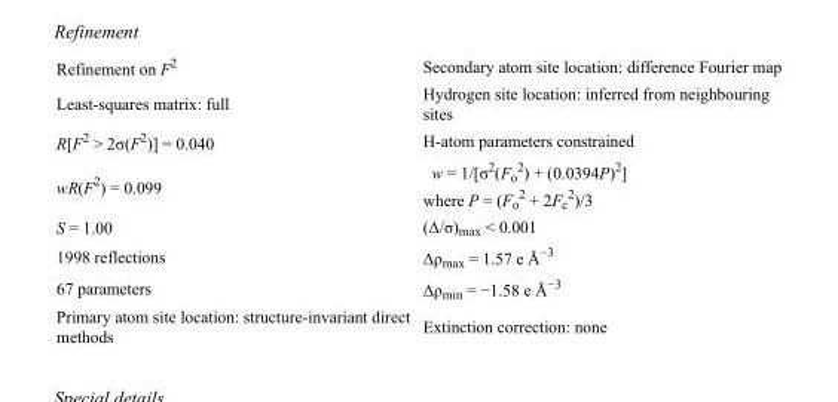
<table><tbody><tr><td>Refinement on F<sup>2</sup></td><td>Secondary atom site location: difference Fourier map</td></tr><tr><td>Least-squares matrix: full</td><td>Hydrogen site location: inferred from neighbouring sites</td></tr><tr><td>R[F<sup>2</sup> &gt; 2σ(F<sup>2</sup>)] = 0.040</td><td>H-atom parameters constrained</td></tr><tr><td>wR(F<sup>2</sup>) = 0.099</td><td>w = 1/[σ<sup>2</sup>(F<sub>o</sub> <sup>2</sup>) + (0.0394P)<sup>2</sup>] where P = (F<sub>o</sub> <sup>2</sup> + 2F<sub>c</sub> <sup>2</sup>)/3</td></tr><tr><td>S = 1.00</td><td>(Δ/σ)<sub>max</sub> &lt; 0.001</td></tr><tr><td>1998 reflections</td><td>Δρ<sub>max</sub> = 1.57 e Å<sup>−3</sup></td></tr><tr><td>67 parameters</td><td>Δρ<sub>min</sub> = −1.58 e Å<sup>−3</sup></td></tr><tr><td>Primary atom site location: structure-invariant direct methods</td><td>Extinction correction: none</td></tr></tbody></table>